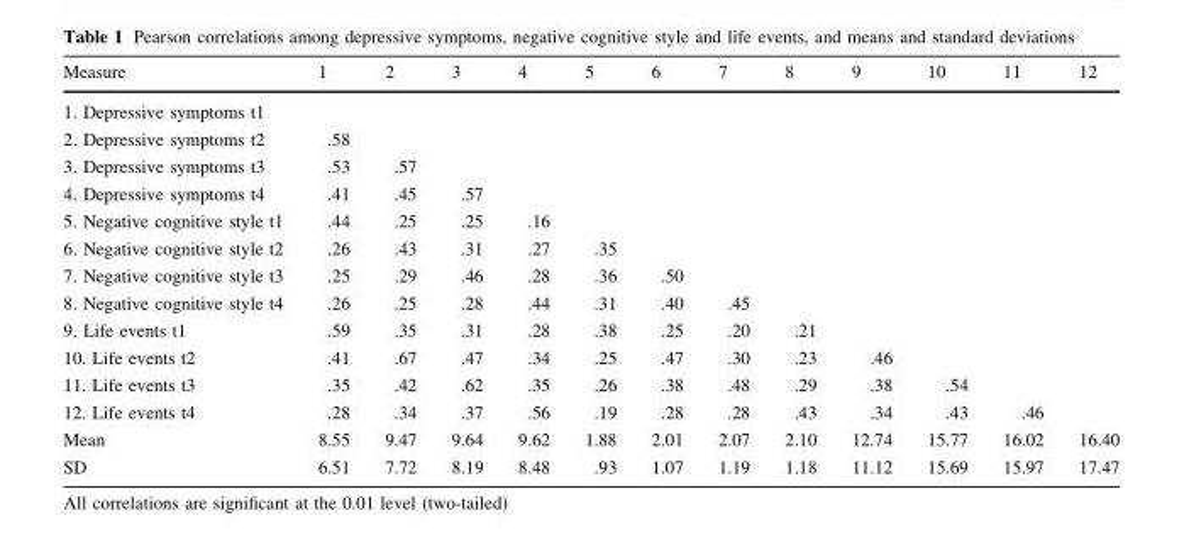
<table><thead><tr><td>Measure</td><td>1</td><td>2</td><td>3</td><td>4</td><td>5</td><td>6</td><td>7</td><td>8</td><td>9</td><td>10</td><td>11</td><td>12</td></tr></thead><tbody><tr><td colspan="13">1. Depressive symptoms t1</td></tr><tr><td>2. Depressive symptoms t2</td><td>.58</td><td></td><td></td><td></td><td></td><td></td><td></td><td></td><td></td><td></td><td></td><td></td></tr><tr><td>3. Depressive symptoms t3</td><td>.53</td><td>.57</td><td></td><td></td><td></td><td></td><td></td><td></td><td></td><td></td><td></td><td></td></tr><tr><td>4. Depressive symptoms t4</td><td>.41</td><td>.45</td><td>.57</td><td></td><td></td><td></td><td></td><td></td><td></td><td></td><td></td><td></td></tr><tr><td>5. Negative cognitive style t1</td><td>.44</td><td>.25</td><td>.25</td><td>.16</td><td></td><td></td><td></td><td></td><td></td><td></td><td></td><td></td></tr><tr><td>6. Negative cognitive style t2</td><td>.26</td><td>.43</td><td>.31</td><td>.27</td><td>.35</td><td></td><td></td><td></td><td></td><td></td><td></td><td></td></tr><tr><td>7. Negative cognitive style t3</td><td>.25</td><td>.29</td><td>.46</td><td>.28</td><td>.36</td><td>.50</td><td></td><td></td><td></td><td></td><td></td><td></td></tr><tr><td>8. Negative cognitive style t4</td><td>.26</td><td>.25</td><td>.28</td><td>.44</td><td>.31</td><td>.40</td><td>.45</td><td></td><td></td><td></td><td></td><td></td></tr><tr><td>9. Life events t1</td><td>.59</td><td>.35</td><td>.31</td><td>.28</td><td>.38</td><td>.25</td><td>.20</td><td>.21</td><td></td><td></td><td></td><td></td></tr><tr><td>10. Life events t2</td><td>.41</td><td>.67</td><td>.47</td><td>.34</td><td>.25</td><td>.47</td><td>.30</td><td>.23</td><td>.46</td><td></td><td></td><td></td></tr><tr><td>11. Life events t3</td><td>.35</td><td>.42</td><td>.62</td><td>.35</td><td>.26</td><td>.38</td><td>.48</td><td>.29</td><td>.38</td><td>.54</td><td></td><td></td></tr><tr><td>12. Life events t4</td><td>.28</td><td>.34</td><td>.37</td><td>.56</td><td>.19</td><td>.28</td><td>.28</td><td>.43</td><td>.34</td><td>.43</td><td>.46</td><td></td></tr><tr><td>Mean</td><td>8.55</td><td>9.47</td><td>9.64</td><td>9.62</td><td>1.88</td><td>2.01</td><td>2.07</td><td>2.10</td><td>12.74</td><td>15.77</td><td>16.02</td><td>16.40</td></tr><tr><td>SD</td><td>6.51</td><td>7.72</td><td>8.19</td><td>8.48</td><td>.93</td><td>1.07</td><td>1.19</td><td>1.18</td><td>11.12</td><td>15.69</td><td>15.97</td><td>17.47</td></tr></tbody></table>